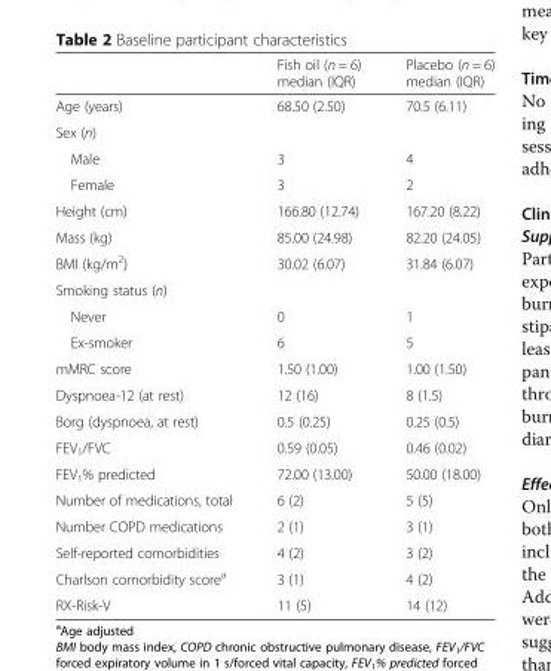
<table><thead><tr><td></td><td>Fish oil (n = 6) median (IQR)</td><td>Placebo (n = 6) median (IQR)</td></tr></thead><tbody><tr><td>Age (years)</td><td>68.50 (2.50)</td><td>70.5 (6.11)</td></tr><tr><td colspan="3">Sex (n)</td></tr><tr><td>Male</td><td>3</td><td>4</td></tr><tr><td>Female</td><td>3</td><td>2</td></tr><tr><td>Height (cm)</td><td>166.80 (12.74)</td><td>167.20 (8.22)</td></tr><tr><td>Mass (kg)</td><td>85.00 (24.98)</td><td>82.20 (24.05)</td></tr><tr><td>BMI (kg/m<sup>2</sup>)</td><td>30.02 (6.07)</td><td>31.84 (6.07)</td></tr><tr><td colspan="3">Smoking status (n)</td></tr><tr><td>Never</td><td>0</td><td>1</td></tr><tr><td>Ex-smoker</td><td>6</td><td>5</td></tr><tr><td>mMRC score</td><td>1.50 (1.00)</td><td>1.00 (1.50)</td></tr><tr><td>Dyspnoea-12 (at rest)</td><td>12 (16)</td><td>8 (1.5)</td></tr><tr><td>Borg (dyspnoea, at rest)</td><td>0.5 (0.25)</td><td>0.25 (0.5)</td></tr><tr><td>FEV<sub>1</sub>/FVC</td><td>0.59 (0.05)</td><td>0.46 (0.02)</td></tr><tr><td>FEV<sub>1</sub>% predicted</td><td>72.00 (13.00)</td><td>50.00 (18.00)</td></tr><tr><td>Number of medications, total</td><td>6 (2)</td><td>5 (5)</td></tr><tr><td>Number COPD medications</td><td>2 (1)</td><td>3 (1)</td></tr><tr><td>Self-reported comorbidities</td><td>4 (2)</td><td>3 (2)</td></tr><tr><td>Charlson comorbidity score<sup>a</sup></td><td>3 (1)</td><td>4 (2)</td></tr><tr><td>RX-Risk-V</td><td>11 (5)</td><td>14 (12)</td></tr></tbody></table>